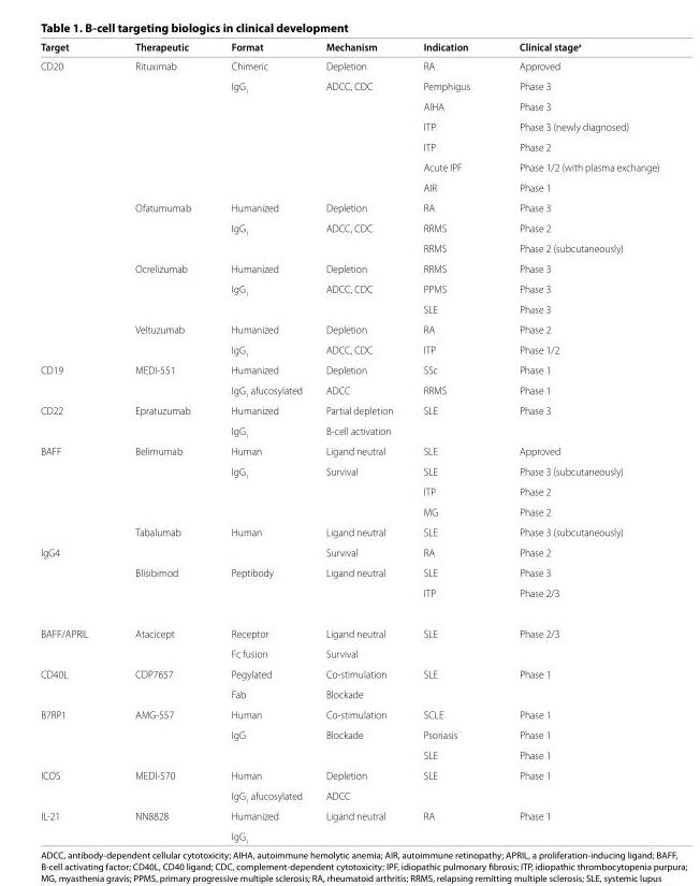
<table><tbody><tr><td>Target</td><td>Therapeutic</td><td>Format</td><td>Mechanism</td><td>Indication</td><td>Clinical stagea</td></tr><tr><td rowspan="15">CD20</td><td>Rituximab</td><td>Chimeric</td><td>Depletion</td><td>RA</td><td>Approved</td></tr><tr><td></td><td>IgG<sub>1</sub></td><td>ADCC, CDC</td><td>Pemphigus</td><td>Phase 3</td></tr><tr><td></td><td></td><td></td><td>AIHA</td><td>Phase 3</td></tr><tr><td></td><td></td><td></td><td>ITP</td><td>Phase 3 (newly diagnosed)</td></tr><tr><td></td><td></td><td></td><td>ITP</td><td>Phase 2</td></tr><tr><td></td><td></td><td></td><td>Acute IPF</td><td>Phase 1/2 (with plasma exchange)</td></tr><tr><td></td><td></td><td></td><td>AIR</td><td>Phase 1</td></tr><tr><td>Ofatumumab</td><td>Humanized</td><td>Depletion</td><td>RA</td><td>Phase 3</td></tr><tr><td></td><td>IgG<sub>1</sub></td><td>ADCC, CDC</td><td>RRMS</td><td>Phase 2</td></tr><tr><td></td><td></td><td></td><td>RRMS</td><td>Phase 2 (subcutaneously)</td></tr><tr><td>Ocrelizumab</td><td>Humanized</td><td>Depletion</td><td>RRMS</td><td>Phase 3</td></tr><tr><td></td><td>IgG<sub>1</sub></td><td>ADCC, CDC</td><td>PPMS</td><td>Phase 3</td></tr><tr><td></td><td></td><td></td><td>SLE</td><td>Phase 3</td></tr><tr><td>Veltuzumab</td><td>Humanized</td><td>Depletion</td><td>RA</td><td>Phase 2</td></tr><tr><td></td><td>IgG<sub>1</sub></td><td>ADCC, CDC</td><td>ITP</td><td>Phase 1/2</td></tr><tr><td rowspan="2">CD19</td><td>MEDI-551</td><td>Humanized</td><td>Depletion</td><td>SSc</td><td>Phase 1</td></tr><tr><td></td><td>IgG<sub>1</sub> afucosylated</td><td>ADCC</td><td>RRMS</td><td>Phase 1</td></tr><tr><td rowspan="2">CD22</td><td>Epratuzumab</td><td>Humanized</td><td>Partial depletion</td><td>SLE</td><td>Phase 3</td></tr><tr><td></td><td>IgG<sub>1</sub></td><td colspan="2">B-cell activation</td><td></td></tr><tr><td rowspan="5">BAFF</td><td>Belimumab</td><td>Human</td><td>Ligand neutral</td><td>SLE</td><td>Approved</td></tr><tr><td></td><td>IgG<sub>1</sub></td><td>Survival</td><td>SLE</td><td>Phase 3 (subcutaneously)</td></tr><tr><td></td><td></td><td></td><td>ITP</td><td>Phase 2</td></tr><tr><td></td><td></td><td></td><td>MG</td><td>Phase 2</td></tr><tr><td>Tabalumab</td><td>Human</td><td>Ligand neutral</td><td>SLE</td><td>Phase 3 (subcutaneously)</td></tr><tr><td rowspan="3">IgG4</td><td></td><td></td><td>Survival</td><td>RA</td><td>Phase 2</td></tr><tr><td>Blisibimod</td><td>Peptibody</td><td>Ligand neutral</td><td>SLE</td><td>Phase 3</td></tr><tr><td></td><td></td><td></td><td>ITP</td><td>Phase 2/3</td></tr><tr><td rowspan="2">BAFF/APRIL</td><td>Atacicept</td><td>Receptor</td><td>Ligand neutral</td><td>SLE</td><td>Phase 2/3</td></tr><tr><td></td><td>Fc fusion</td><td>Survival</td><td></td><td></td></tr><tr><td rowspan="2">CD40L</td><td>CDP7657</td><td>Pegylated</td><td>Co-stimulation</td><td>SLE</td><td>Phase 1</td></tr><tr><td></td><td>Fab</td><td>Blockade</td><td></td><td></td></tr><tr><td rowspan="3">B7RP1</td><td>AMG-557</td><td>Human</td><td>Co-stimulation</td><td>SCLE</td><td>Phase 1</td></tr><tr><td></td><td>IgG</td><td>Blockade</td><td>Psoriasis</td><td>Phase 1</td></tr><tr><td></td><td></td><td></td><td>SLE</td><td>Phase 1</td></tr><tr><td rowspan="2">ICOS</td><td>MEDI-570</td><td>Human</td><td>Depletion</td><td>SLE</td><td>Phase 1</td></tr><tr><td></td><td>IgG<sub>1</sub> afucosylated</td><td>ADCC</td><td></td><td></td></tr><tr><td rowspan="2">IL-21</td><td>NN8828</td><td>Humanized</td><td>Ligand neutral</td><td>RA</td><td>Phase 1</td></tr><tr><td></td><td>IgG<sub>1</sub></td><td></td><td></td><td></td></tr></tbody></table>